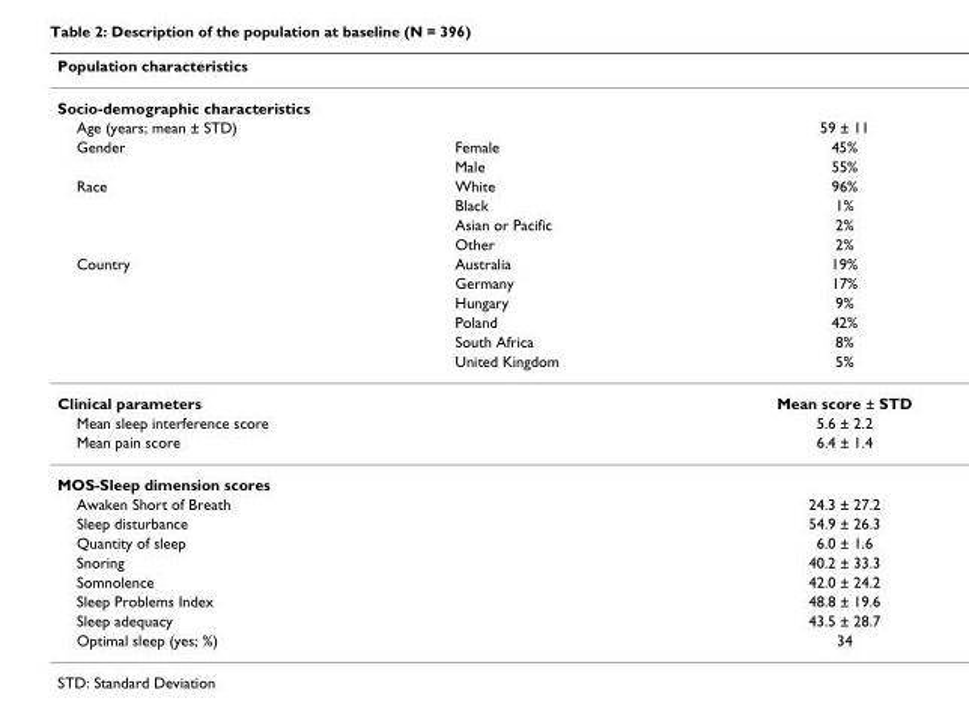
<table><thead><tr><td rowspan="2" colspan="3">Population characteristics Socio-demographic characteristics</td></tr><tr></tr><tr><td>Age (years; mean ± STD)</td><td></td><td>59 ± 11</td></tr></thead><tbody><tr><td rowspan="2">Gender</td><td>Female</td><td>45%</td></tr><tr><td>Male</td><td>55%</td></tr><tr><td rowspan="4">Race</td><td>White</td><td>96%</td></tr><tr><td>Black</td><td>1%</td></tr><tr><td>Asian or Pacific</td><td>2%</td></tr><tr><td>Other</td><td>2%</td></tr><tr><td rowspan="6">Country</td><td>Australia</td><td>19%</td></tr><tr><td>Germany</td><td>17%</td></tr><tr><td>Hungary</td><td>9%</td></tr><tr><td>Poland</td><td>42%</td></tr><tr><td>South Africa</td><td>8%</td></tr><tr><td>United Kingdom</td><td>5%</td></tr><tr><td colspan="2">Clinical parameters</td><td>Mean score ± STD</td></tr><tr><td colspan="2">Mean sleep interference score</td><td>5.6 ± 2.2</td></tr><tr><td colspan="2">Mean pain score</td><td>6.4 ± 1.4</td></tr><tr><td colspan="3">MOS-Sleep dimension scores</td></tr><tr><td colspan="2">Awaken Short of Breath</td><td>24.3 ± 27.2</td></tr><tr><td colspan="2">Sleep disturbance</td><td>54.9 ± 26.3</td></tr><tr><td colspan="2">Quantity of sleep</td><td>6.0 ± 1.6</td></tr><tr><td colspan="2">Snoring</td><td>40.2 ± 33.3</td></tr><tr><td colspan="2">Somnolence</td><td>42.0 ± 24.2</td></tr><tr><td colspan="2">Sleep Problems Index</td><td>48.8 ± 19.6</td></tr><tr><td colspan="2">Sleep adequacy</td><td>43.5 ± 28.7</td></tr><tr><td colspan="2">Optimal sleep (yes; %)</td><td>34</td></tr></tbody></table>